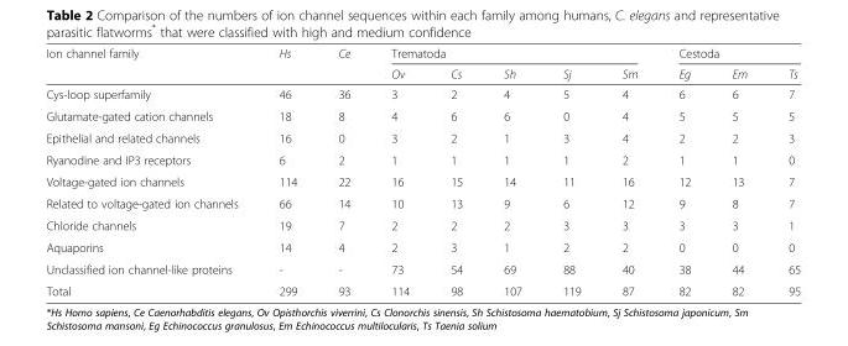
<table><thead><tr><td rowspan="2">Ion channel family</td><td rowspan="2">Hs</td><td rowspan="2">Ce</td><td colspan="5">Trematoda</td><td colspan="3">Cestoda</td></tr><tr><td>Ov</td><td>Cs</td><td>Sh</td><td>Sj</td><td>Sm</td><td>Eg</td><td>Em</td><td>Ts</td></tr></thead><tbody><tr><td>Cys-loop superfamily</td><td>46</td><td>36</td><td>3</td><td>2</td><td>4</td><td>5</td><td>4</td><td>6</td><td>6</td><td>7</td></tr><tr><td>Glutamate-gated cation channels</td><td>18</td><td>8</td><td>4</td><td>6</td><td>6</td><td>0</td><td>4</td><td>5</td><td>5</td><td>5</td></tr><tr><td>Epithelial and related channels</td><td>16</td><td>0</td><td>3</td><td>2</td><td>1</td><td>3</td><td>4</td><td>2</td><td>2</td><td>3</td></tr><tr><td>Ryanodine and IP3 receptors</td><td>6</td><td>2</td><td>1</td><td>1</td><td>1</td><td>1</td><td>2</td><td>1</td><td>1</td><td>0</td></tr><tr><td>Voltage-gated ion channels</td><td>114</td><td>22</td><td>16</td><td>15</td><td>14</td><td>11</td><td>16</td><td>12</td><td>13</td><td>7</td></tr><tr><td>Related to voltage-gated ion channels</td><td>66</td><td>14</td><td>10</td><td>13</td><td>9</td><td>6</td><td>12</td><td>9</td><td>8</td><td>7</td></tr><tr><td>Chloride channels</td><td>19</td><td>7</td><td>2</td><td>2</td><td>2</td><td>3</td><td>3</td><td>3</td><td>3</td><td>1</td></tr><tr><td>Aquaporins</td><td>14</td><td>4</td><td>2</td><td>3</td><td>1</td><td>2</td><td>2</td><td>0</td><td>0</td><td>0</td></tr><tr><td>Unclassified ion channel-like proteins</td><td>-</td><td>-</td><td>73</td><td>54</td><td>69</td><td>88</td><td>40</td><td>38</td><td>44</td><td>65</td></tr><tr><td>Total</td><td>299</td><td>93</td><td>114</td><td>98</td><td>107</td><td>119</td><td>87</td><td>82</td><td>82</td><td>95</td></tr></tbody></table>